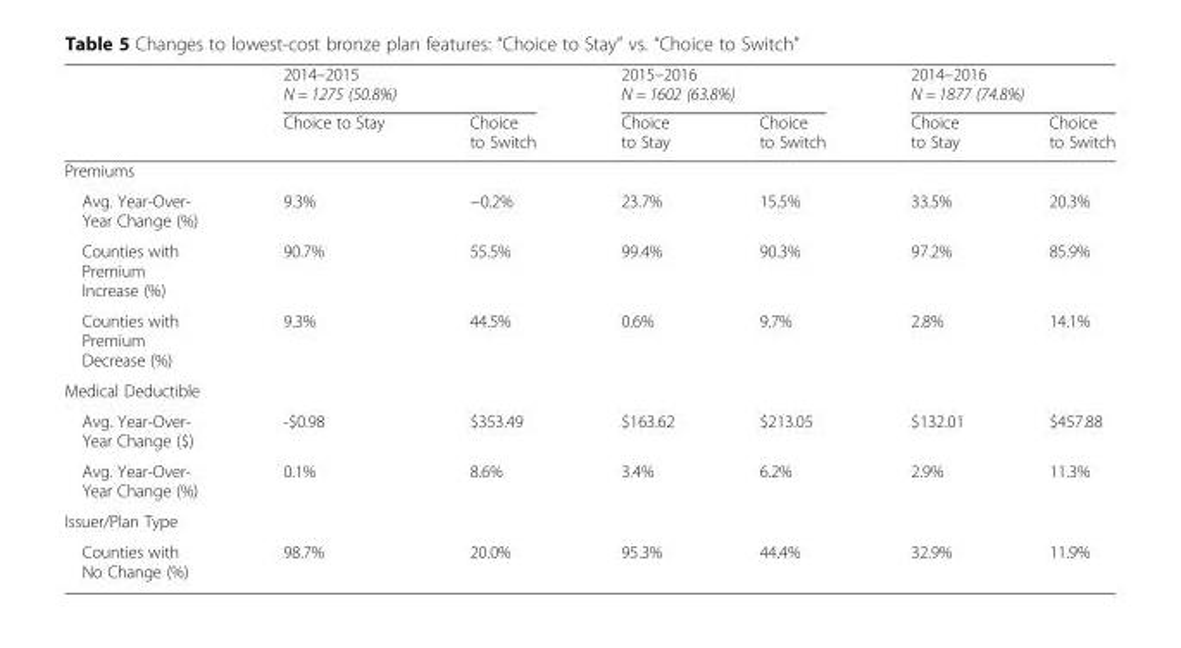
<table><thead><tr><td rowspan="2"></td><td colspan="2">2014–2015 N = 1275 (50.8%)</td><td colspan="2">2015–2016 N = 1602 (63.8%)</td><td colspan="2">2014–2016 N = 1877 (74.8%)</td></tr><tr><td>Choice to Stay</td><td>Choice to Switch</td><td>Choice to Stay</td><td>Choice to Switch</td><td>Choice to Stay</td><td>Choice to Switch</td></tr></thead><tbody><tr><td colspan="7">Premiums</td></tr><tr><td>Avg. Year-Over- Year Change (%)</td><td>9.3%</td><td>−0.2%</td><td>23.7%</td><td>15.5%</td><td>33.5%</td><td>20.3%</td></tr><tr><td>Counties with Premium Increase (%)</td><td>90.7%</td><td>55.5%</td><td>99.4%</td><td>90.3%</td><td>97.2%</td><td>85.9%</td></tr><tr><td>Counties with Premium Decrease (%)</td><td>9.3%</td><td>44.5%</td><td>0.6%</td><td>9.7%</td><td>2.8%</td><td>14.1%</td></tr><tr><td colspan="7">Medical Deductible</td></tr><tr><td>Avg. Year-Over- Year Change ($)</td><td>-$0.98</td><td>$353.49</td><td>$163.62</td><td>$213.05</td><td>$132.01</td><td>$457.88</td></tr><tr><td>Avg. Year-Over- Year Change (%)</td><td>0.1%</td><td>8.6%</td><td>3.4%</td><td>6.2%</td><td>2.9%</td><td>11.3%</td></tr><tr><td colspan="7">Issuer/Plan Type</td></tr><tr><td>Counties with No Change (%)</td><td>98.7%</td><td>20.0%</td><td>95.3%</td><td>44.4%</td><td>32.9%</td><td>11.9%</td></tr></tbody></table>